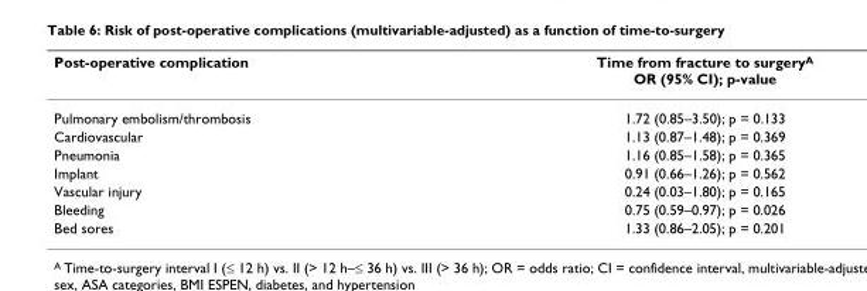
<table><thead><tr><td>Post-operative complication</td><td>Time from fracture to surgery<sup>A</sup> OR (95% CI); p-value</td></tr></thead><tbody><tr><td>Pulmonary embolism/thrombosis</td><td>1.72 (0.85–3.50); p = 0.133</td></tr><tr><td>Cardiovascular</td><td>1.13 (0.87–1.48); p = 0.369</td></tr><tr><td>Pneumonia</td><td>1.16 (0.85–1.58); p = 0.365</td></tr><tr><td>Implant</td><td>0.91 (0.66–1.26); p = 0.562</td></tr><tr><td>Vascular injury</td><td>0.24 (0.03–1.80); p = 0.165</td></tr><tr><td>Bleeding</td><td>0.75 (0.59–0.97); p = 0.026</td></tr><tr><td>Bed sores</td><td>1.33 (0.86–2.05); p = 0.201</td></tr></tbody></table>